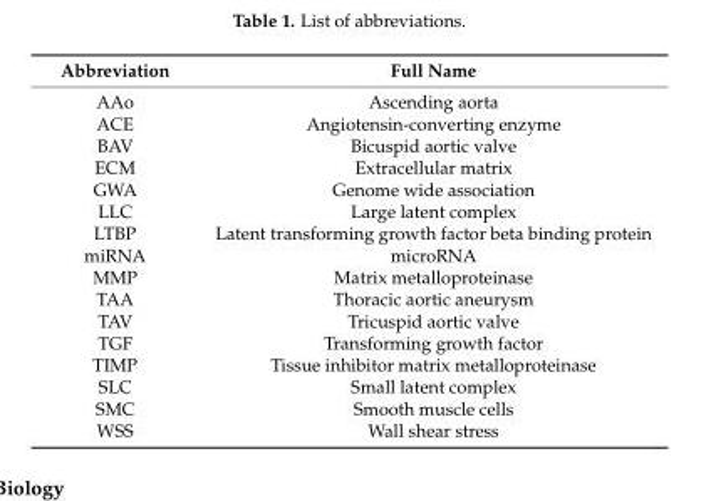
<table><thead><tr><td>Abbreviation</td><td>Full Name</td></tr></thead><tbody><tr><td>AAo</td><td>Ascending aorta</td></tr><tr><td>ACE</td><td>Angiotensin-converting enzyme</td></tr><tr><td>BAV</td><td>Bicuspid aortic valve</td></tr><tr><td>ECM</td><td>Extracellular matrix</td></tr><tr><td>GWA</td><td>Genome wide association</td></tr><tr><td>LLC</td><td>Large latent complex</td></tr><tr><td>LTBP</td><td>Latent transforming growth factor beta binding protein</td></tr><tr><td>miRNA</td><td>microRNA</td></tr><tr><td>MMP</td><td>Matrix metalloproteinase</td></tr><tr><td>TAA</td><td>Thoracic aortic aneurysm</td></tr><tr><td>TAV</td><td>Tricuspid aortic valve</td></tr><tr><td>TGF</td><td>Transforming growth factor</td></tr><tr><td>TIMP</td><td>Tissue inhibitor matrix metalloproteinase</td></tr><tr><td>SLC</td><td>Small latent complex</td></tr><tr><td>SMC</td><td>Smooth muscle cells</td></tr><tr><td>WSS</td><td>Wall shear stress</td></tr></tbody></table>